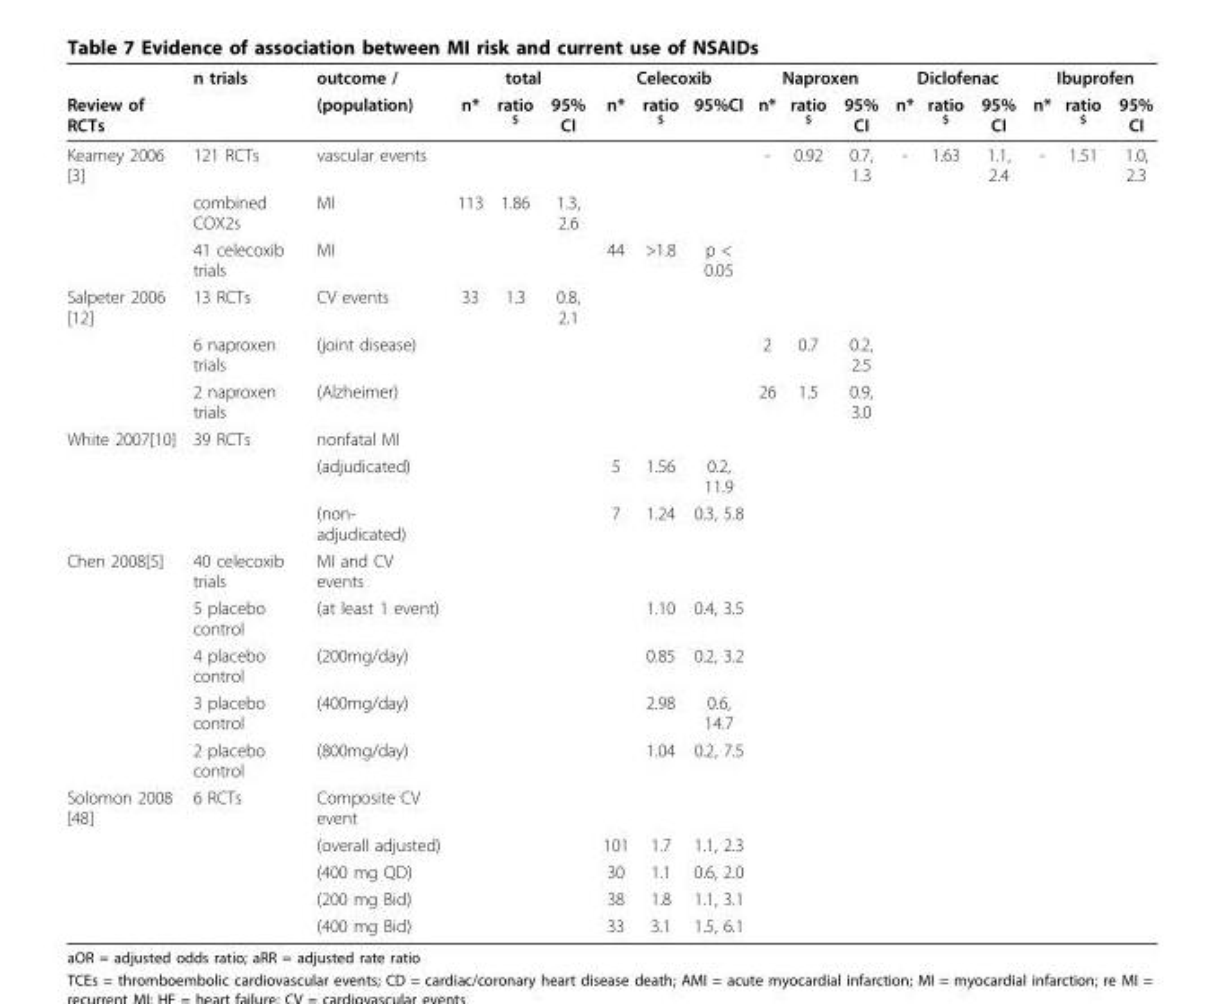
<table><thead><tr><td rowspan="2">Review of RCTs</td><td rowspan="2">n trials</td><td rowspan="2">outcome / (population)</td><td colspan="3">total</td><td colspan="3">Celecoxib</td><td colspan="3">Naproxen</td><td colspan="3">Diclofenac</td><td colspan="3">Ibuprofen</td></tr><tr><td>n*</td><td>ratio <sup>$</sup></td><td>95% CI</td><td>n*</td><td>ratio <sup>$</sup></td><td>95%CI</td><td>n*</td><td>ratio <sup>$</sup></td><td>95% CI</td><td>n*</td><td>ratio <sup>$</sup></td><td>95% CI</td><td>n*</td><td>ratio <sup>$</sup></td><td>95% CI</td></tr></thead><tbody><tr><td rowspan="3">Kearney 2006 [3]</td><td>121 RCTs</td><td>vascular events</td><td></td><td></td><td></td><td></td><td></td><td></td><td>-</td><td>0.92</td><td>0.7, 1.3</td><td>-</td><td>1.63</td><td>1.1, 2.4</td><td>-</td><td>1.51</td><td>1.0, 2.3</td></tr><tr><td>combined COX2s</td><td>MI</td><td>113</td><td>1.86</td><td>1.3, 2.6</td><td></td><td></td><td></td><td></td><td></td><td></td><td></td><td></td><td></td><td></td><td></td><td></td></tr><tr><td>41 celecoxib trials</td><td>MI</td><td></td><td></td><td></td><td>44</td><td>&gt;1.8</td><td>p &lt; 0.05</td><td></td><td></td><td></td><td></td><td></td><td></td><td></td><td></td><td></td></tr><tr><td rowspan="3">Salpeter 2006 [12]</td><td>13 RCTs</td><td>CV events</td><td>33</td><td>1.3</td><td>0.8, 2.1</td><td></td><td></td><td></td><td></td><td></td><td></td><td></td><td></td><td></td><td></td><td></td><td></td></tr><tr><td>6 naproxen trials</td><td>(joint disease)</td><td></td><td></td><td></td><td></td><td></td><td></td><td>2</td><td>0.7</td><td>0.2, 2.5</td><td></td><td></td><td></td><td></td><td></td><td></td></tr><tr><td>2 naproxen trials</td><td>(Alzheimer)</td><td></td><td></td><td></td><td></td><td></td><td></td><td>26</td><td>1.5</td><td>0.9, 3.0</td><td></td><td></td><td></td><td></td><td></td><td></td></tr><tr><td rowspan="3">White 2007[10]</td><td>39 RCTs</td><td>nonfatal MI</td><td></td><td></td><td></td><td></td><td></td><td></td><td></td><td></td><td></td><td></td><td></td><td></td><td></td><td></td><td></td></tr><tr><td></td><td>(adjudicated)</td><td></td><td></td><td></td><td>5</td><td>1.56</td><td>0.2, 11.9</td><td></td><td></td><td></td><td></td><td></td><td></td><td></td><td></td><td></td></tr><tr><td></td><td>(non- adjudicated)</td><td></td><td></td><td></td><td>7</td><td>1.24</td><td>0.3, 5.8</td><td></td><td></td><td></td><td></td><td></td><td></td><td></td><td></td><td></td></tr><tr><td rowspan="5">Chen 2008[5]</td><td>40 celecoxib trials</td><td>MI and CV events</td><td></td><td></td><td></td><td></td><td></td><td></td><td></td><td></td><td></td><td></td><td></td><td></td><td></td><td></td><td></td></tr><tr><td>5 placebo control</td><td>(at least 1 event)</td><td></td><td></td><td></td><td></td><td>1.10</td><td>0.4, 3.5</td><td></td><td></td><td></td><td></td><td></td><td></td><td></td><td></td><td></td></tr><tr><td>4 placebo control</td><td>(200mg/day)</td><td></td><td></td><td></td><td></td><td>0.85</td><td>0.2, 3.2</td><td></td><td></td><td></td><td></td><td></td><td></td><td></td><td></td><td></td></tr><tr><td>3 placebo control</td><td>(400mg/day)</td><td></td><td></td><td></td><td></td><td>2.98</td><td>0.6, 14.7</td><td></td><td></td><td></td><td></td><td></td><td></td><td></td><td></td><td></td></tr><tr><td>2 placebo control</td><td>(800mg/day)</td><td></td><td></td><td></td><td></td><td>1.04</td><td>0.2, 7.5</td><td></td><td></td><td></td><td></td><td></td><td></td><td></td><td></td><td></td></tr><tr><td rowspan="5">Solomon 2008 [48]</td><td>6 RCTs</td><td>Composite CV event</td><td></td><td></td><td></td><td></td><td></td><td></td><td></td><td></td><td></td><td></td><td></td><td></td><td></td><td></td><td></td></tr><tr><td></td><td>(overall adjusted)</td><td></td><td></td><td></td><td>101</td><td>1.7</td><td>1.1, 2.3</td><td></td><td></td><td></td><td></td><td></td><td></td><td></td><td></td><td></td></tr><tr><td></td><td>(400 mg QD)</td><td></td><td></td><td></td><td>30</td><td>1.1</td><td>0.6, 2.0</td><td></td><td></td><td></td><td></td><td></td><td></td><td></td><td></td><td></td></tr><tr><td></td><td>(200 mg Bid)</td><td></td><td></td><td></td><td>38</td><td>1.8</td><td>1.1, 3.1</td><td></td><td></td><td></td><td></td><td></td><td></td><td></td><td></td><td></td></tr><tr><td></td><td>(400 mg Bid)</td><td></td><td></td><td></td><td>33</td><td>3.1</td><td>1.5, 6.1</td><td></td><td></td><td></td><td></td><td></td><td></td><td></td><td></td><td></td></tr></tbody></table>